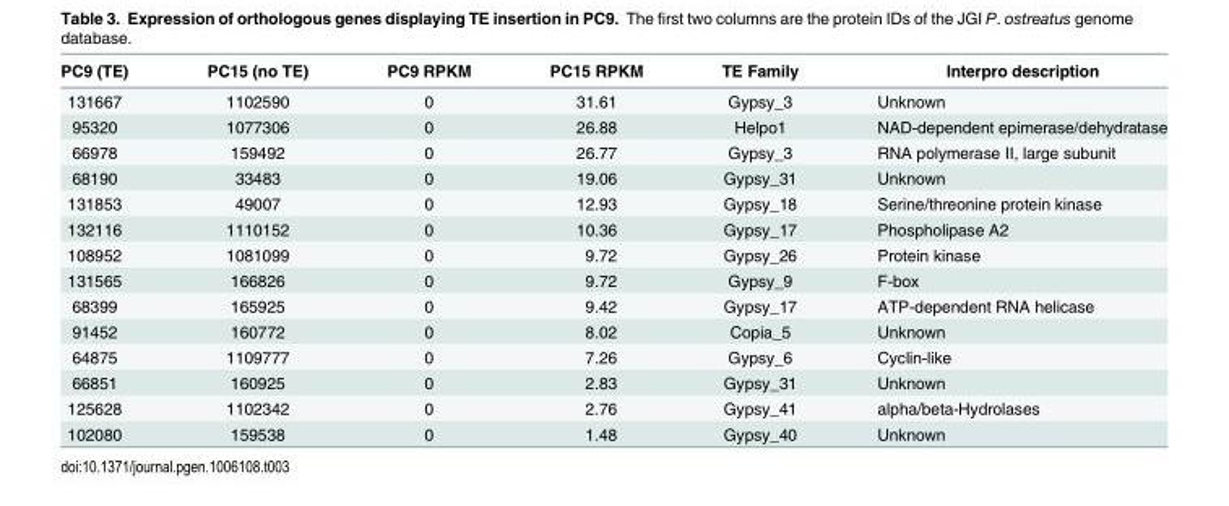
<table><thead><tr><td>PC9 (TE)</td><td>PC15 (no TE)</td><td>PC9 RPKM</td><td>PC15 RPKM</td><td>TE Family</td><td>Interpro description</td></tr></thead><tbody><tr><td>131667</td><td>1102590</td><td>0</td><td>31.61</td><td>Gypsy_3</td><td>Unknown</td></tr><tr><td>95320</td><td>1077306</td><td>0</td><td>26.88</td><td>Helpo1</td><td>NAD-dependent epimerase/dehydratase</td></tr><tr><td>66978</td><td>159492</td><td>0</td><td>26.77</td><td>Gypsy_3</td><td>RNA polymerase II, large subunit</td></tr><tr><td>68190</td><td>33483</td><td>0</td><td>19.06</td><td>Gypsy_31</td><td>Unknown</td></tr><tr><td>131853</td><td>49007</td><td>0</td><td>12.93</td><td>Gypsy_18</td><td>Serine/threonine protein kinase</td></tr><tr><td>132116</td><td>1110152</td><td>0</td><td>10.36</td><td>Gypsy_17</td><td>Phospholipase A2</td></tr><tr><td>108952</td><td>1081099</td><td>0</td><td>9.72</td><td>Gypsy_26</td><td>Protein kinase</td></tr><tr><td>131565</td><td>166826</td><td>0</td><td>9.72</td><td>Gypsy_9</td><td>F-box</td></tr><tr><td>68399</td><td>165925</td><td>0</td><td>9.42</td><td>Gypsy_17</td><td>ATP-dependent RNA helicase</td></tr><tr><td>91452</td><td>160772</td><td>0</td><td>8.02</td><td>Copia_5</td><td>Unknown</td></tr><tr><td>64875</td><td>1109777</td><td>0</td><td>7.26</td><td>Gypsy_6</td><td>Cyclin-like</td></tr><tr><td>66851</td><td>160925</td><td>0</td><td>2.83</td><td>Gypsy_31</td><td>Unknown</td></tr><tr><td>125628</td><td>1102342</td><td>0</td><td>2.76</td><td>Gypsy_41</td><td>alpha/beta-Hydrolases</td></tr><tr><td>102080</td><td>159538</td><td>0</td><td>1.48</td><td>Gypsy_40</td><td>Unknown</td></tr></tbody></table>